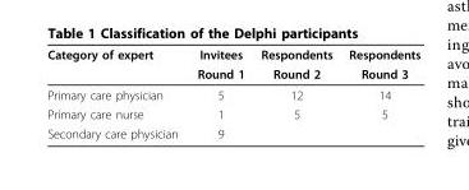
<table><thead><tr><td rowspan="2">Category of expert</td><td rowspan="2">Invitees Round 1</td><td rowspan="2">Respondents Round 2</td><td rowspan="2">Respondents Round 3</td></tr><tr></tr></thead><tbody><tr><td>Primary care physician</td><td>5</td><td>12</td><td>14</td></tr><tr><td>Primary care nurse</td><td>1</td><td>5</td><td>5</td></tr><tr><td>Secondary care physician</td><td>9</td><td></td><td></td></tr></tbody></table>